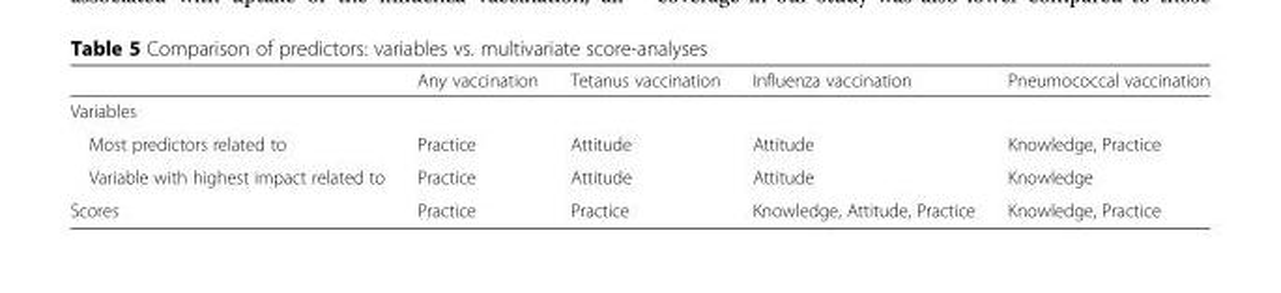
<table><thead><tr><td></td><td>Any vaccination</td><td>Tetanus vaccination</td><td>Influenza vaccination</td><td>Pneumococcal vaccination</td></tr></thead><tbody><tr><td colspan="5">Variables</td></tr><tr><td>Most predictors related to</td><td>Practice</td><td>Attitude</td><td>Attitude</td><td>Knowledge, Practice</td></tr><tr><td>Variable with highest impact related to</td><td>Practice</td><td>Attitude</td><td>Attitude</td><td>Knowledge</td></tr><tr><td>Scores</td><td>Practice</td><td>Practice</td><td>Knowledge, Attitude, Practice</td><td>Knowledge, Practice</td></tr></tbody></table>